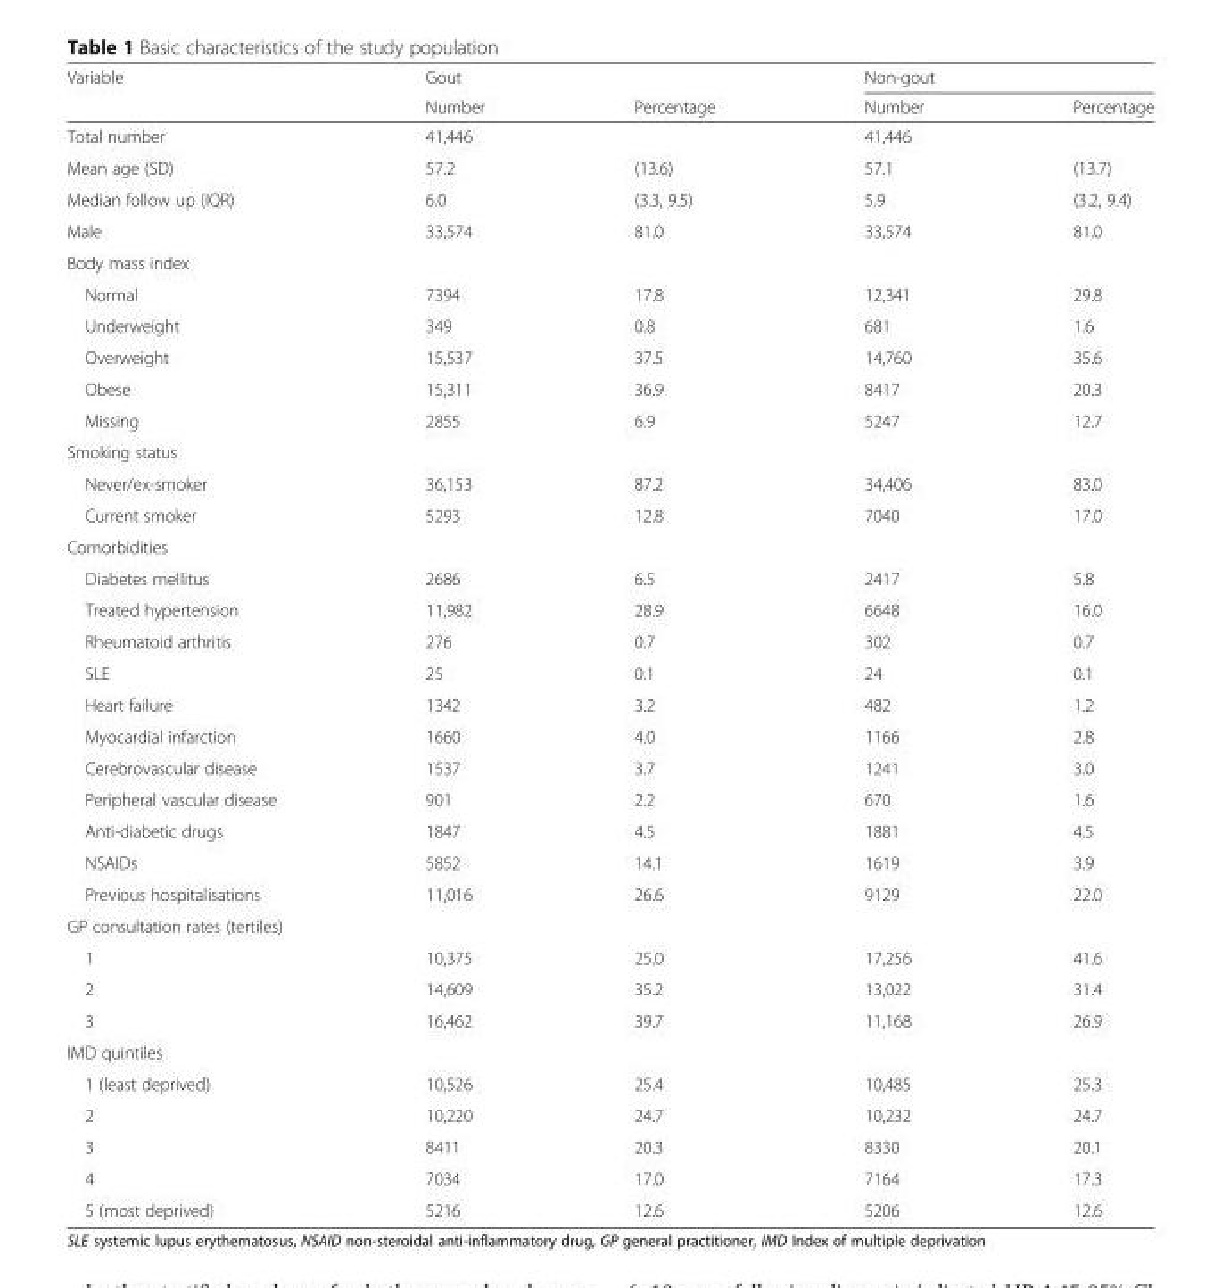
<table><thead><tr><td rowspan="2">Variable</td><td rowspan="2">Gout Number</td><td rowspan="2">Percentage</td><td colspan="2">Non-gout</td></tr><tr><td>Number</td><td>Percentage</td></tr></thead><tbody><tr><td>Total number</td><td>41,446</td><td></td><td>41,446</td><td></td></tr><tr><td>Mean age (SD)</td><td>57.2</td><td>(13.6)</td><td>57.1</td><td>(13.7)</td></tr><tr><td>Median follow up (IQR)</td><td>6.0</td><td>(3.3, 9.5)</td><td>5.9</td><td>(3.2, 9.4)</td></tr><tr><td>Male</td><td>33,574</td><td>81.0</td><td>33,574</td><td>81.0</td></tr><tr><td colspan="5">Body mass index</td></tr><tr><td>Normal</td><td>7394</td><td>17.8</td><td>12,341</td><td>29.8</td></tr><tr><td>Underweight</td><td>349</td><td>0.8</td><td>681</td><td>1.6</td></tr><tr><td>Overweight</td><td>15,537</td><td>37.5</td><td>14,760</td><td>35.6</td></tr><tr><td>Obese</td><td>15,311</td><td>36.9</td><td>8417</td><td>20.3</td></tr><tr><td>Missing</td><td>2855</td><td>6.9</td><td>5247</td><td>12.7</td></tr><tr><td colspan="5">Smoking status</td></tr><tr><td>Never/ex-smoker</td><td>36,153</td><td>87.2</td><td>34,406</td><td>83.0</td></tr><tr><td>Current smoker</td><td>5293</td><td>12.8</td><td>7040</td><td>17.0</td></tr><tr><td colspan="5">Comorbidities</td></tr><tr><td>Diabetes mellitus</td><td>2686</td><td>6.5</td><td>2417</td><td>5.8</td></tr><tr><td>Treated hypertension</td><td>11,982</td><td>28.9</td><td>6648</td><td>16.0</td></tr><tr><td>Rheumatoid arthritis</td><td>276</td><td>0.7</td><td>302</td><td>0.7</td></tr><tr><td>SLE</td><td>25</td><td>0.1</td><td>24</td><td>0.1</td></tr><tr><td>Heart failure</td><td>1342</td><td>3.2</td><td>482</td><td>1.2</td></tr><tr><td>Myocardial infarction</td><td>1660</td><td>4.0</td><td>1166</td><td>2.8</td></tr><tr><td>Cerebrovascular disease</td><td>1537</td><td>3.7</td><td>1241</td><td>3.0</td></tr><tr><td>Peripheral vascular disease</td><td>901</td><td>2.2</td><td>670</td><td>1.6</td></tr><tr><td>Anti-diabetic drugs</td><td>1847</td><td>4.5</td><td>1881</td><td>4.5</td></tr><tr><td>NSAIDs</td><td>5852</td><td>14.1</td><td>1619</td><td>3.9</td></tr><tr><td>Previous hospitalisations</td><td>11,016</td><td>26.6</td><td>9129</td><td>22.0</td></tr><tr><td colspan="5">GP consultation rates (tertiles)</td></tr><tr><td>1</td><td>10,375</td><td>25.0</td><td>17,256</td><td>41.6</td></tr><tr><td>2</td><td>14,609</td><td>35.2</td><td>13,022</td><td>31.4</td></tr><tr><td>3</td><td>16,462</td><td>39.7</td><td>11,168</td><td>26.9</td></tr><tr><td colspan="5">IMD quintiles</td></tr><tr><td>1 (least deprived)</td><td>10,526</td><td>25.4</td><td>10,485</td><td>25.3</td></tr><tr><td>2</td><td>10,220</td><td>24.7</td><td>10,232</td><td>24.7</td></tr><tr><td>3</td><td>8411</td><td>20.3</td><td>8330</td><td>20.1</td></tr><tr><td>4</td><td>7034</td><td>17.0</td><td>7164</td><td>17.3</td></tr><tr><td>5 (most deprived)</td><td>5216</td><td>12.6</td><td>5206</td><td>12.6</td></tr></tbody></table>